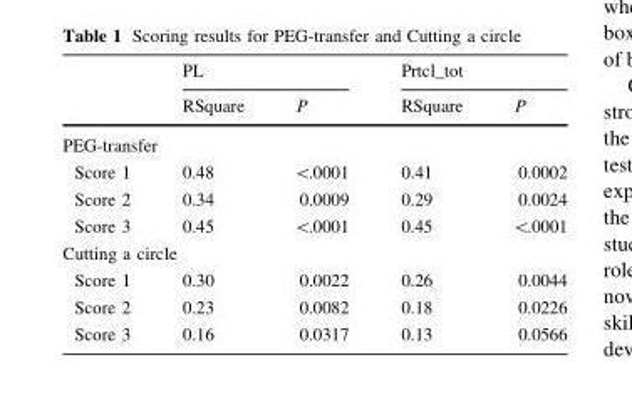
<table><thead><tr><td rowspan="2"></td><td colspan="2">PL</td><td colspan="2">Prtcl_tot</td></tr><tr><td>RSquare</td><td>P</td><td>RSquare</td><td>P</td></tr></thead><tbody><tr><td colspan="5">PEG-transfer</td></tr><tr><td>Score 1</td><td>0.48</td><td>&lt;.0001</td><td>0.41</td><td>0.0002</td></tr><tr><td>Score 2</td><td>0.34</td><td>0.0009</td><td>0.29</td><td>0.0024</td></tr><tr><td>Score 3</td><td>0.45</td><td>&lt;.0001</td><td>0.45</td><td>&lt;.0001</td></tr><tr><td colspan="5">Cutting a circle</td></tr><tr><td>Score 1</td><td>0.30</td><td>0.0022</td><td>0.26</td><td>0.0044</td></tr><tr><td>Score 2</td><td>0.23</td><td>0.0082</td><td>0.18</td><td>0.0226</td></tr><tr><td>Score 3</td><td>0.16</td><td>0.0317</td><td>0.13</td><td>0.0566</td></tr></tbody></table>